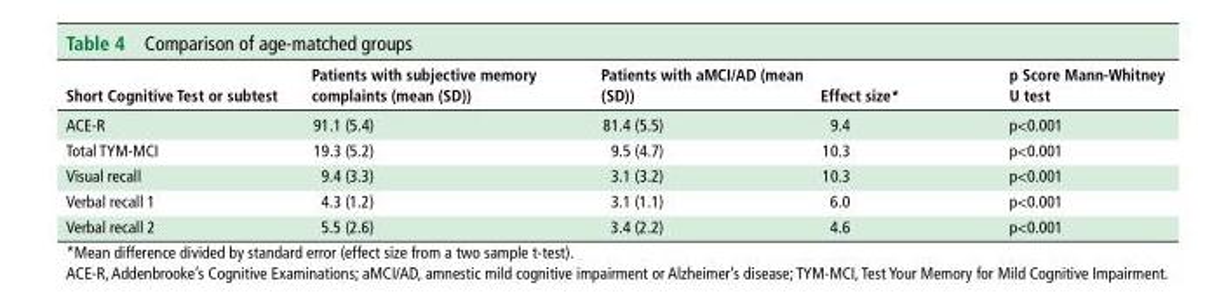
<table><thead><tr><td>short cognitive test or subtest</td><td>Patients with subjective memory complaints (mean (sd))</td><td>Patients with aMcI/Ad (mean (sd))</td><td>effect size*</td><td>p score Mann-Whitney u test</td></tr></thead><tbody><tr><td>ACE-R</td><td>91.1 (5.4)</td><td>81.4 (5.5)</td><td>9.4</td><td>p&lt;0.001</td></tr><tr><td>Total TYM-MCI</td><td>19.3 (5.2)</td><td>9.5 (4.7)</td><td>10.3</td><td>p&lt;0.001</td></tr><tr><td>Visual recall</td><td>9.4 (3.3)</td><td>3.1 (3.2)</td><td>10.3</td><td>p&lt;0.001</td></tr><tr><td>Verbal recall 1</td><td>4.3 (1.2)</td><td>3.1 (1.1)</td><td>6.0</td><td>p&lt;0.001</td></tr><tr><td>Verbal recall 2</td><td>5.5 (2.6)</td><td>3.4 (2.2)</td><td>4.6</td><td>p&lt;0.001</td></tr></tbody></table>